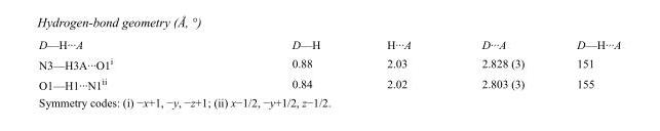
<table><tbody><tr><td>D—H···A</td><td>D—H</td><td>H···A</td><td>D···A</td><td>D—H···A</td></tr><tr><td>N3—H3A···O1<sup>i</sup></td><td>0.88</td><td>2.03</td><td>2.828 (3)</td><td>151</td></tr><tr><td>O1—H1···N1<sup>ii</sup></td><td>0.84</td><td>2.02</td><td>2.803 (3)</td><td>155</td></tr></tbody></table>